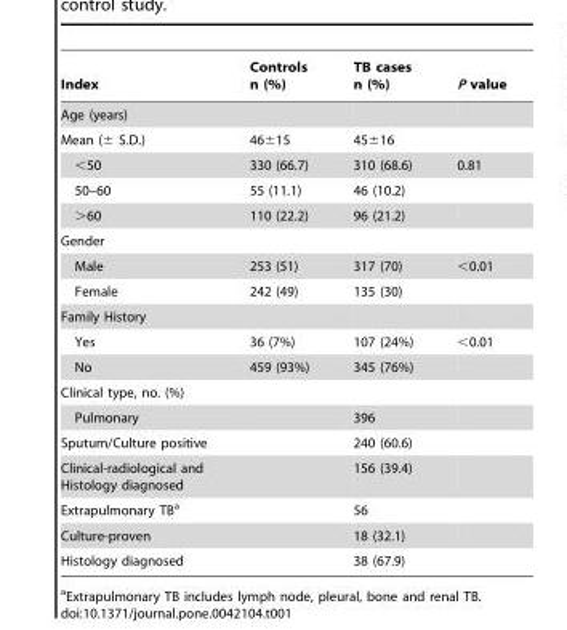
<table><thead><tr><td>Index</td><td>Controls n (%)</td><td>TB cases n (%)</td><td>P value</td></tr></thead><tbody><tr><td colspan="4">Age (years)</td></tr><tr><td>Mean (± S.D.)</td><td>46±15</td><td>45±16</td><td></td></tr><tr><td>&lt;50</td><td>330 (66.7)</td><td>310 (68.6)</td><td>0.81</td></tr><tr><td>50–60</td><td>55 (11.1)</td><td>46 (10.2)</td><td></td></tr><tr><td>&gt;60</td><td>110 (22.2)</td><td>96 (21.2)</td><td></td></tr><tr><td colspan="4">Gender</td></tr><tr><td>Male</td><td>253 (51)</td><td>317 (70)</td><td>&lt;0.01</td></tr><tr><td>Female</td><td>242 (49)</td><td>135 (30)</td><td></td></tr><tr><td colspan="4">Family History</td></tr><tr><td>Yes</td><td>36 (7%)</td><td>107 (24%)</td><td>&lt;0.01</td></tr><tr><td>No</td><td>459 (93%)</td><td>345 (76%)</td><td></td></tr><tr><td colspan="4">Clinical type, no. (%)</td></tr><tr><td>Pulmonary</td><td></td><td>396</td><td></td></tr><tr><td>Sputum/Culture positive</td><td></td><td>240 (60.6)</td><td></td></tr><tr><td>Clinical-radiological and Histology diagnosed</td><td></td><td>156 (39.4)</td><td></td></tr><tr><td>Extrapulmonary TB<sup>a</sup></td><td></td><td>56</td><td></td></tr><tr><td>Culture-proven</td><td></td><td>18 (32.1)</td><td></td></tr><tr><td>Histology diagnosed</td><td></td><td>38 (67.9)</td><td></td></tr></tbody></table>